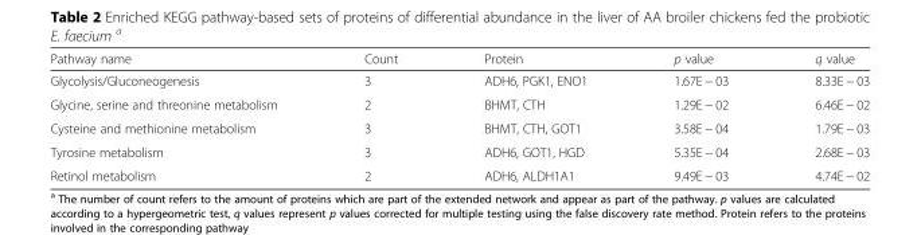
<table><thead><tr><td>Pathway name</td><td>Count</td><td>Protein</td><td>p value</td><td>q value</td></tr></thead><tbody><tr><td>Glycolysis/Gluconeogenesis</td><td>3</td><td>ADH6, PGK1, ENO1</td><td>1.67E − 03</td><td>8.33E − 03</td></tr><tr><td>Glycine, serine and threonine metabolism</td><td>2</td><td>BHMT, CTH</td><td>1.29E − 02</td><td>6.46E − 02</td></tr><tr><td>Cysteine and methionine metabolism</td><td>3</td><td>BHMT, CTH, GOT1</td><td>3.58E − 04</td><td>1.79E − 03</td></tr><tr><td>Tyrosine metabolism</td><td>3</td><td>ADH6, GOT1, HGD</td><td>5.35E − 04</td><td>2.68E − 03</td></tr><tr><td>Retinol metabolism</td><td>2</td><td>ADH6, ALDH1A1</td><td>9.49E − 03</td><td>4.74E − 02</td></tr></tbody></table>